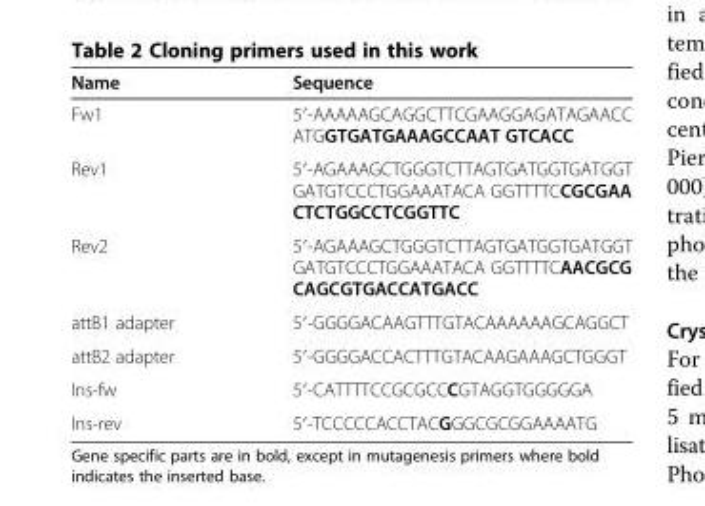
<table><thead><tr><td>Name</td><td>Sequence</td></tr></thead><tbody><tr><td>Fw1</td><td>5′-AAAAAGCAGGCTTCGAAGGAGATAGAACC ATGGTGATGAAAGCCAAT GTCACC</td></tr><tr><td>Rev1</td><td>5′-AGAAAGCTGGGTCTTAGTGATGGTGATGGT GATGTCCCTGGAAATACA GGTTTTCCGCGAA CTCTGGCCTCGGTTC</td></tr><tr><td>Rev2</td><td>5′-AGAAAGCTGGGTCTTAGTGATGGTGATGGT GATGTCCCTGGAAATACA GGTTTTCAACGCG CAGCGTGACCATGACC</td></tr><tr><td>attB1 adapter</td><td>5′-GGGGACAAGTTTGTACAAAAAAGCAGGCT</td></tr><tr><td>attB2 adapter</td><td>5′-GGGGACCACTTTGTACAAGAAAGCTGGGT</td></tr><tr><td>Ins-fw</td><td>5′-CATTTTCCGCGCCCGTAGGTGGGGGA</td></tr><tr><td>Ins-rev</td><td>5′-TCCCCCACCTACGGGCGCGGAAAATG</td></tr></tbody></table>